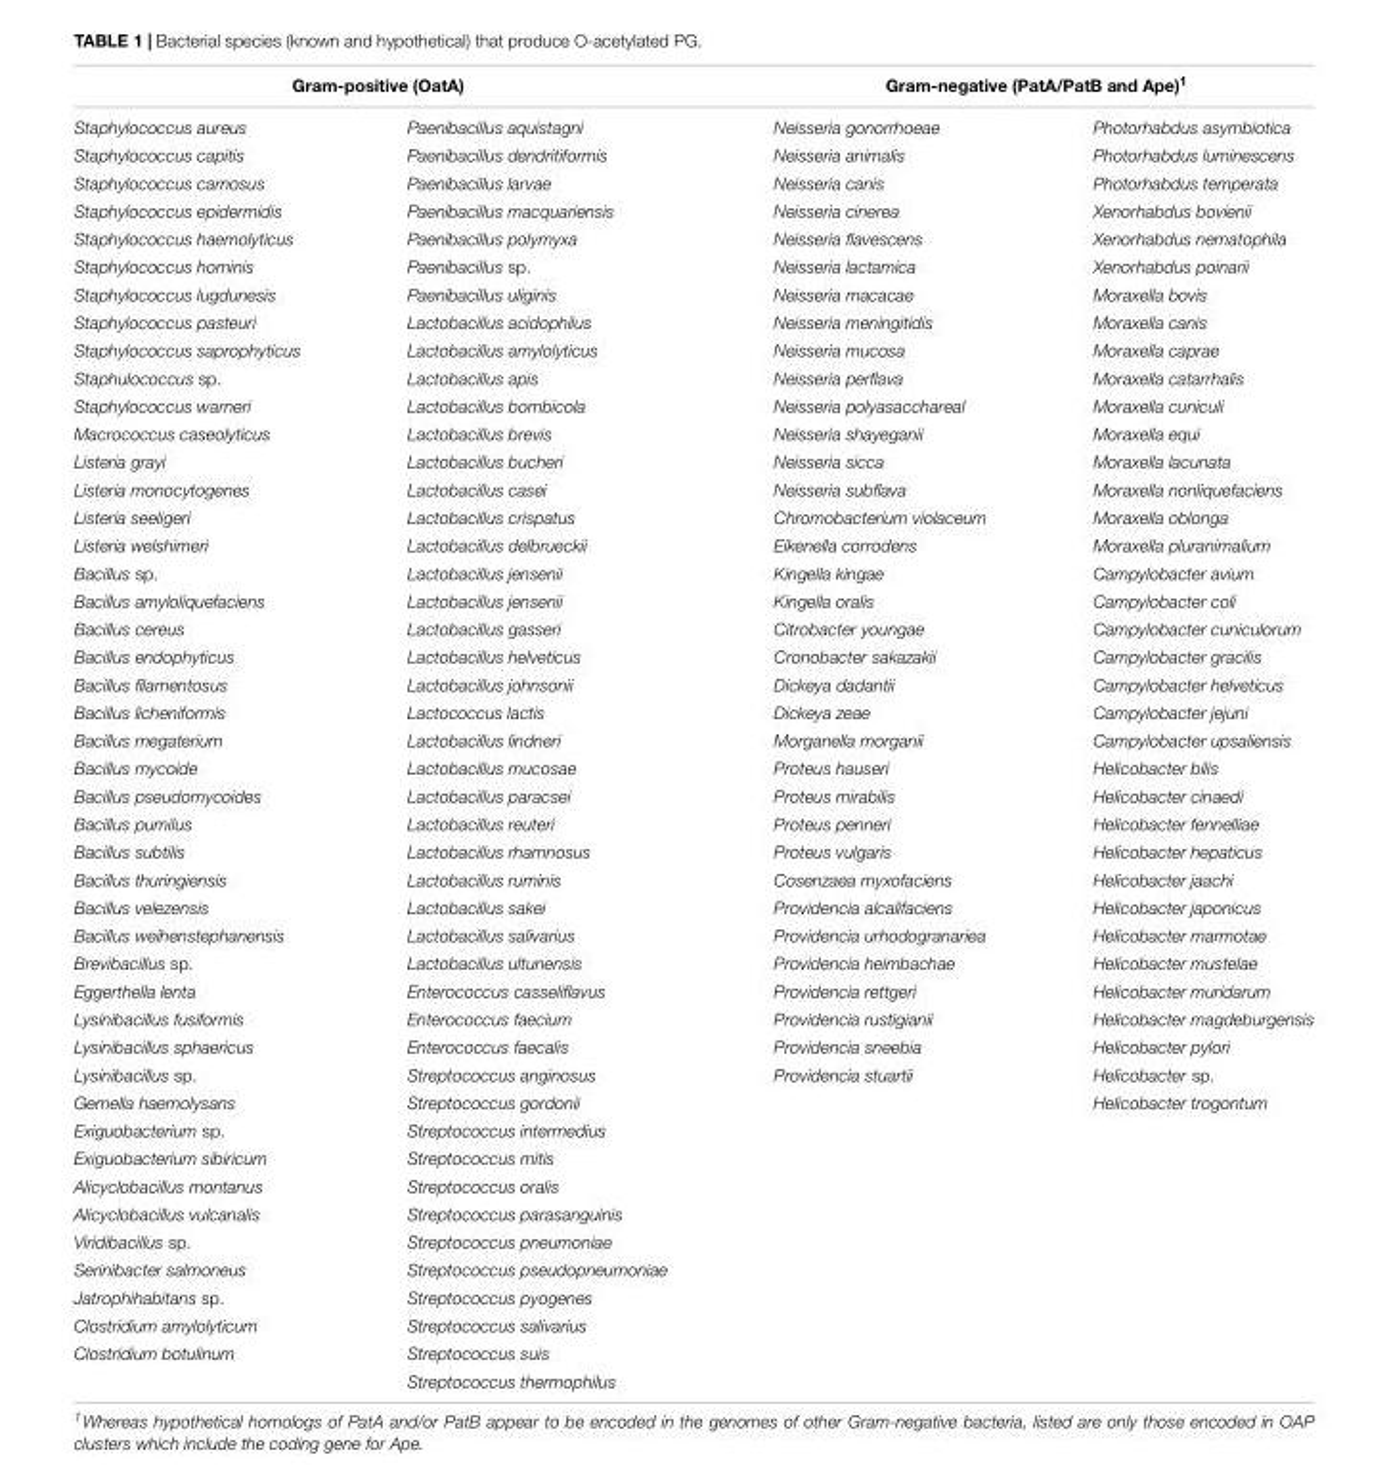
<table><thead><tr><td colspan="2">Gram-positive (OatA)</td><td colspan="2">Gram-negative (PatA/PatB and Ape)<sup>1</sup></td></tr><tr><td>Staphylococcus aureus</td><td>Paenibacillus aquistagni</td><td>Neisseria gonorrhoeae</td><td>Photorhabdus asymbiotica</td></tr></thead><tbody><tr><td>Staphylococcus capitis</td><td>Paenibacillus dendritiformis</td><td>Neisseria animalis</td><td>Photorhabdus luminescens</td></tr><tr><td>Staphylococcus carnosus</td><td>Paenibacillus larvae</td><td>Neisseria canis</td><td>Photorhabdus temperata</td></tr><tr><td>Staphylococcus epidermidis</td><td>Paenibacillus macquariensis</td><td>Neisseria cinerea</td><td>Xenorhabdus bovienii</td></tr><tr><td>Staphylococcus haemolyticus</td><td>Paenibacillus polymyxa</td><td>Neisseria flavescens</td><td>Xenorhabdus nematophila</td></tr><tr><td>Staphylococcus hominis</td><td>Paenibacillus sp.</td><td>Neisseria lactamica</td><td>Xenorhabdus poinarii</td></tr><tr><td>Staphylococcus lugdunesis</td><td>Paenibacillus uliginis</td><td>Neisseria macacae</td><td>Moraxella bovis</td></tr><tr><td>Staphylococcus pasteuri</td><td>Lactobacillus acidophilus</td><td>Neisseria meningitidis</td><td>Moraxella canis</td></tr><tr><td>Staphylococcus saprophyticus</td><td>Lactobacillus amylolyticus</td><td>Neisseria mucosa</td><td>Moraxella caprae</td></tr><tr><td>Staphulococcus sp.</td><td>Lactobacillus apis</td><td>Neisseria perflava</td><td>Moraxella catarrhalis</td></tr><tr><td>Staphylococcus warneri</td><td>Lactobacillus bombicola</td><td>Neisseria polyasacchareal</td><td>Moraxella cuniculi</td></tr><tr><td>Macrococcus caseolyticus</td><td>Lactobacillus brevis</td><td>Neisseria shayeganii</td><td>Moraxella equi</td></tr><tr><td>Listeria grayi</td><td>Lactobacillus bucheri</td><td>Neisseria sicca</td><td>Moraxella lacunata</td></tr><tr><td>Listeria monocytogenes</td><td>Lactobacillus casei</td><td>Neisseria subflava</td><td>Moraxella nonliquefaciens</td></tr><tr><td>Listeria seeligeri</td><td>Lactobacillus crispatus</td><td>Chromobacterium violaceum</td><td>Moraxella oblonga</td></tr><tr><td>Listeria welshimeri</td><td>Lactobacillus delbrueckii</td><td>Eikenella corrodens</td><td>Moraxella pluranimalium</td></tr><tr><td>Bacillus sp.</td><td>Lactobacillus jensenii</td><td>Kingella kingae</td><td>Campylobacter avium</td></tr><tr><td>Bacillus amyloliquefaciens</td><td>Lactobacillus jensenii</td><td>Kingella oralis</td><td>Campylobacter coli</td></tr><tr><td>Bacillus cereus</td><td>Lactobacillus gasseri</td><td>Citrobacter youngae</td><td>Campylobacter cuniculorum</td></tr><tr><td>Bacillus endophyticus</td><td>Lactobacillus helveticus</td><td>Cronobacter sakazakii</td><td>Campylobacter gracilis</td></tr><tr><td>Bacillus filamentosus</td><td>Lactobacillus johnsonii</td><td>Dickeya dadantii</td><td>Campylobacter helveticus</td></tr><tr><td>Bacillus licheniformis</td><td>Lactococcus lactis</td><td>Dickeya zeae</td><td>Campylobacter jejuni</td></tr><tr><td>Bacillus megaterium</td><td>Lactobacillus lindneri</td><td>Morganella morganii</td><td>Campylobacter upsaliensis</td></tr><tr><td>Bacillus mycoide</td><td>Lactobacillus mucosae</td><td>Proteus hauseri</td><td>Helicobacter bilis</td></tr><tr><td>Bacillus pseudomycoides</td><td>Lactobacillus paracsei</td><td>Proteus mirabilis</td><td>Helicobacter cinaedi</td></tr><tr><td>Bacillus pumilus</td><td>Lactobacillus reuteri</td><td>Proteus penneri</td><td>Helicobacter fennelliae</td></tr><tr><td>Bacillus subtilis</td><td>Lactobacillus rhamnosus</td><td>Proteus vulgaris</td><td>Helicobacter hepaticus</td></tr><tr><td>Bacillus thuringiensis</td><td>Lactobacillus ruminis</td><td>Cosenzaea myxofaciens</td><td>Helicobacter jaachi</td></tr><tr><td>Bacillus velezensis</td><td>Lactobacillus sakei</td><td>Providencia alcalifaciens</td><td>Helicobacter japonicus</td></tr><tr><td>Bacillus weihenstephanensis</td><td>Lactobacillus salivarius</td><td>Providencia urhodogranariea</td><td>Helicobacter marmotae</td></tr><tr><td>Brevibacillus sp.</td><td>Lactobacillus ultunensis</td><td>Providencia heimbachae</td><td>Helicobacter mustelae</td></tr><tr><td>Eggerthella lenta</td><td>Enterococcus casseliflavus</td><td>Providencia rettgeri</td><td>Helicobacter muridarum</td></tr><tr><td>Lysinibacillus fusiformis</td><td>Enterococcus faecium</td><td>Providencia rustigianii</td><td>Helicobacter magdeburgensis</td></tr><tr><td>Lysinibacillus sphaericus</td><td>Enterococcus faecalis</td><td>Providencia sneebia</td><td>Helicobacter pylori</td></tr><tr><td>Lysinibacillus sp.</td><td>Streptococcus anginosus</td><td>Providencia stuartii</td><td>Helicobacter sp.</td></tr><tr><td>Gemella haemolysans</td><td>Streptococcus gordonii</td><td></td><td>Helicobacter trogontum</td></tr><tr><td>Exiguobacterium sp.</td><td>Streptococcus intermedius</td><td></td><td></td></tr><tr><td>Exiguobacterium sibiricum</td><td>Streptococcus mitis</td><td></td><td></td></tr><tr><td>Alicyclobacillus montanus</td><td>Streptococcus oralis</td><td></td><td></td></tr><tr><td>Alicyclobacillus vulcanalis</td><td>Streptococcus parasanguinis</td><td></td><td></td></tr><tr><td>Viridibacillus sp.</td><td>Streptococcus pneumoniae</td><td></td><td></td></tr><tr><td>Serinibacter salmoneus</td><td>Streptococcus pseudopneumoniae</td><td></td><td></td></tr><tr><td>Jatrophihabitans sp.</td><td>Streptococcus pyogenes</td><td></td><td></td></tr><tr><td>Clostridium amylolyticum</td><td>Streptococcus salivarius</td><td></td><td></td></tr><tr><td rowspan="2">Clostridium botulinum</td><td>Streptococcus suis</td><td></td><td></td></tr><tr><td>Streptococcus thermophilus</td><td></td><td></td></tr></tbody></table>